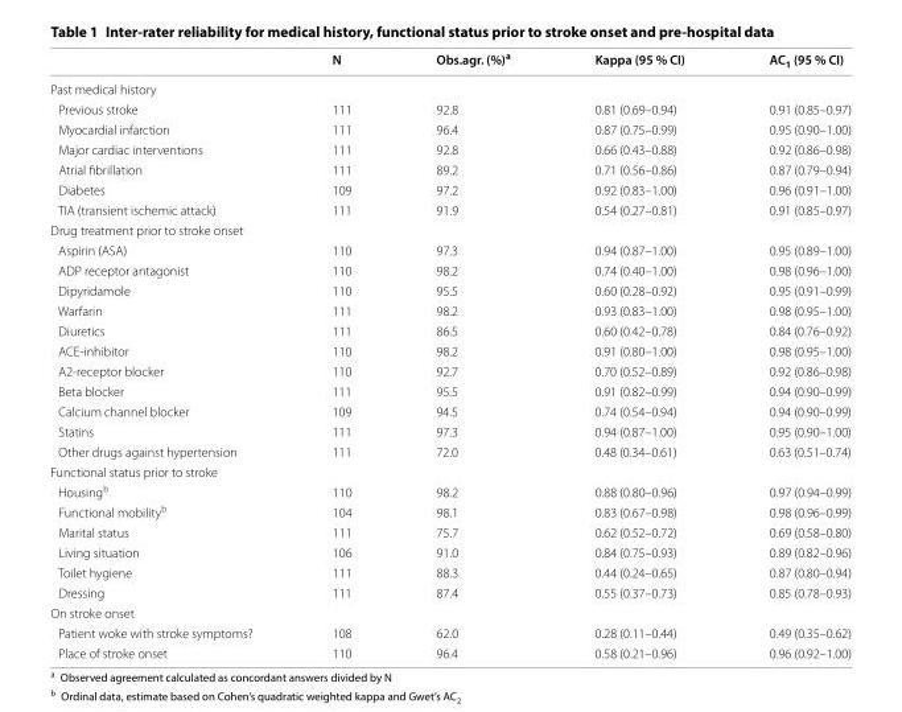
<table><thead><tr><td></td><td>N</td><td>Obs.agr. (%)<sup>a</sup></td><td>Kappa (95 % CI)</td><td>AC<sub>1</sub> (95 % CI)</td></tr></thead><tbody><tr><td colspan="5">Past medical history</td></tr><tr><td>Previous stroke</td><td>111</td><td>92.8</td><td>0.81 (0.69–0.94)</td><td>0.91 (0.85–0.97)</td></tr><tr><td>Myocardial infarction</td><td>111</td><td>96.4</td><td>0.87 (0.75–0.99)</td><td>0.95 (0.90–1.00)</td></tr><tr><td>Major cardiac interventions</td><td>111</td><td>92.8</td><td>0.66 (0.43–0.88)</td><td>0.92 (0.86–0.98)</td></tr><tr><td>Atrial fibrillation</td><td>111</td><td>89.2</td><td>0.71 (0.56–0.86)</td><td>0.87 (0.79–0.94)</td></tr><tr><td>Diabetes</td><td>109</td><td>97.2</td><td>0.92 (0.83–1.00)</td><td>0.96 (0.91–1.00)</td></tr><tr><td>TIA (transient ischemic attack)</td><td>111</td><td>91.9</td><td>0.54 (0.27–0.81)</td><td>0.91 (0.85–0.97)</td></tr><tr><td colspan="5">Drug treatment prior to stroke onset</td></tr><tr><td>Aspirin (ASA)</td><td>110</td><td>97.3</td><td>0.94 (0.87–1.00)</td><td>0.95 (0.89–1.00)</td></tr><tr><td>ADP receptor antagonist</td><td>110</td><td>98.2</td><td>0.74 (0.40–1.00)</td><td>0.98 (0.96–1.00)</td></tr><tr><td>Dipyridamole</td><td>110</td><td>95.5</td><td>0.60 (0.28–0.92)</td><td>0.95 (0.91–0.99)</td></tr><tr><td>Warfarin</td><td>111</td><td>98.2</td><td>0.93 (0.83–1.00)</td><td>0.98 (0.95–1.00)</td></tr><tr><td>Diuretics</td><td>111</td><td>86.5</td><td>0.60 (0.42–0.78)</td><td>0.84 (0.76–0.92)</td></tr><tr><td>ACE-inhibitor</td><td>110</td><td>98.2</td><td>0.91 (0.80–1.00)</td><td>0.98 (0.95–1.00)</td></tr><tr><td>A2-receptor blocker</td><td>110</td><td>92.7</td><td>0.70 (0.52–0.89)</td><td>0.92 (0.86–0.98)</td></tr><tr><td>Beta blocker</td><td>111</td><td>95.5</td><td>0.91 (0.82–0.99)</td><td>0.94 (0.90–0.99)</td></tr><tr><td>Calcium channel blocker</td><td>109</td><td>94.5</td><td>0.74 (0.54–0.94)</td><td>0.94 (0.90–0.99)</td></tr><tr><td>Statins</td><td>111</td><td>97.3</td><td>0.94 (0.87–1.00)</td><td>0.95 (0.90–1.00)</td></tr><tr><td>Other drugs against hypertension</td><td>111</td><td>72.0</td><td>0.48 (0.34–0.61)</td><td>0.63 (0.51–0.74)</td></tr><tr><td colspan="5">Functional status prior to stroke</td></tr><tr><td>Housing<sup>b</sup></td><td>110</td><td>98.2</td><td>0.88 (0.80–0.96)</td><td>0.97 (0.94–0.99)</td></tr><tr><td>Functional mobility<sup>b</sup></td><td>104</td><td>98.1</td><td>0.83 (0.67–0.98)</td><td>0.98 (0.96–0.99)</td></tr><tr><td>Marital status</td><td>111</td><td>75.7</td><td>0.62 (0.52–0.72)</td><td>0.69 (0.58–0.80)</td></tr><tr><td>Living situation</td><td>106</td><td>91.0</td><td>0.84 (0.75–0.93)</td><td>0.89 (0.82–0.96)</td></tr><tr><td>Toilet hygiene</td><td>111</td><td>88.3</td><td>0.44 (0.24–0.65)</td><td>0.87 (0.80–0.94)</td></tr><tr><td>Dressing</td><td>111</td><td>87.4</td><td>0.55 (0.37–0.73)</td><td>0.85 (0.78–0.93)</td></tr><tr><td colspan="5">On stroke onset</td></tr><tr><td>Patient woke with stroke symptoms?</td><td>108</td><td>62.0</td><td>0.28 (0.11–0.44)</td><td>0.49 (0.35–0.62)</td></tr><tr><td>Place of stroke onset</td><td>110</td><td>96.4</td><td>0.58 (0.21–0.96)</td><td>0.96 (0.92–1.00)</td></tr></tbody></table>